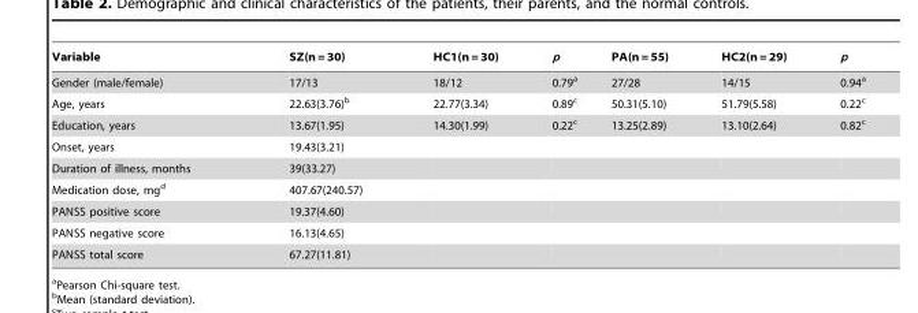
<table><thead><tr><td>Variable</td><td>SZ(n = 30)</td><td>HC1(n = 30)</td><td>p</td><td>PA(n = 55)</td><td>HC2(n = 29)</td><td>p</td></tr></thead><tbody><tr><td>Gender (male/female)</td><td>17/13</td><td>18/12</td><td>0.79<sup>a</sup></td><td>27/28</td><td>14/15</td><td>0.94<sup>a</sup></td></tr><tr><td>Age, years</td><td>22.63(3.76)<sup>b</sup></td><td>22.77(3.34)</td><td>0.89<sup>c</sup></td><td>50.31(5.10)</td><td>51.79(5.58)</td><td>0.22<sup>c</sup></td></tr><tr><td>Education, years</td><td>13.67(1.95)</td><td>14.30(1.99)</td><td>0.22<sup>c</sup></td><td>13.25(2.89)</td><td>13.10(2.64)</td><td>0.82<sup>c</sup></td></tr><tr><td>Onset, years</td><td>19.43(3.21)</td><td></td><td></td><td></td><td></td><td></td></tr><tr><td>Duration of illness, months</td><td>39(33.27)</td><td></td><td></td><td></td><td></td><td></td></tr><tr><td>Medication dose, mg<sup>d</sup></td><td>407.67(240.57)</td><td></td><td></td><td></td><td></td><td></td></tr><tr><td>PANSS positive score</td><td>19.37(4.60)</td><td></td><td></td><td></td><td></td><td></td></tr><tr><td>PANSS negative score</td><td>16.13(4.65)</td><td></td><td></td><td></td><td></td><td></td></tr><tr><td>PANSS total score</td><td>67.27(11.81)</td><td></td><td></td><td></td><td></td><td></td></tr></tbody></table>